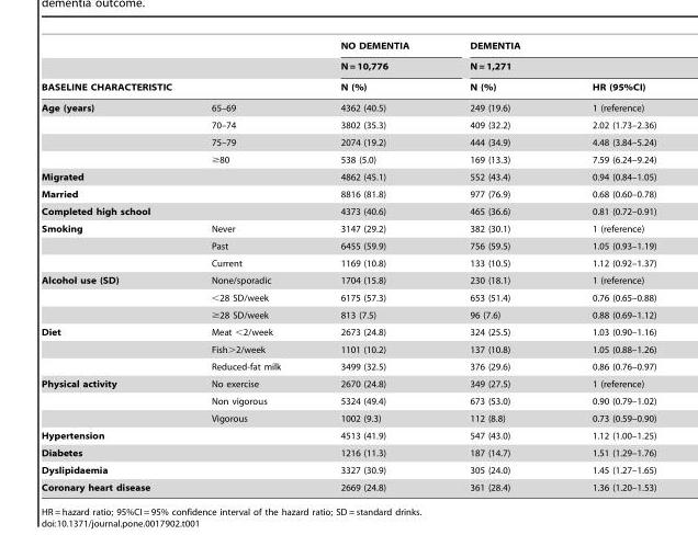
<table><thead><tr><td rowspan="2"></td><td rowspan="2"></td><td rowspan="3">NO DEMENTIA N = 10,776 N (%)</td><td rowspan="2" colspan="2">DEMENTIA N = 1,271</td></tr><tr></tr><tr><td colspan="2">BASELINE CHARACTERISTIC</td><td>N (%)</td><td>HR (95%CI)</td></tr></thead><tbody><tr><td rowspan="4">Age (years)</td><td>65–69</td><td>4362 (40.5)</td><td>249 (19.6)</td><td>1 (reference)</td></tr><tr><td>70–74</td><td>3802 (35.3)</td><td>409 (32.2)</td><td>2.02 (1.73–2.36)</td></tr><tr><td>75–79</td><td>2074 (19.2)</td><td>444 (34.9)</td><td>4.48 (3.84–5.24)</td></tr><tr><td>≥80</td><td>538 (5.0)</td><td>169 (13.3)</td><td>7.59 (6.24–9.24)</td></tr><tr><td>Migrated</td><td></td><td>4862 (45.1)</td><td>552 (43.4)</td><td>0.94 (0.84–1.05)</td></tr><tr><td>Married</td><td></td><td>8816 (81.8)</td><td>977 (76.9)</td><td>0.68 (0.60–0.78)</td></tr><tr><td>Completed high school</td><td></td><td>4373 (40.6)</td><td>465 (36.6)</td><td>0.81 (0.72–0.91)</td></tr><tr><td rowspan="3">Smoking</td><td>Never</td><td>3147 (29.2)</td><td>382 (30.1)</td><td>1 (reference)</td></tr><tr><td>Past</td><td>6455 (59.9)</td><td>756 (59.5)</td><td>1.05 (0.93–1.19)</td></tr><tr><td>Current</td><td>1169 (10.8)</td><td>133 (10.5)</td><td>1.12 (0.92–1.37)</td></tr><tr><td rowspan="3">Alcohol use (SD)</td><td>None/sporadic</td><td>1704 (15.8)</td><td>230 (18.1)</td><td>1 (reference)</td></tr><tr><td>&lt;28 SD/week</td><td>6175 (57.3)</td><td>653 (51.4)</td><td>0.76 (0.65–0.88)</td></tr><tr><td>≥28 SD/week</td><td>813 (7.5)</td><td>96 (7.6)</td><td>0.88 (0.69–1.12)</td></tr><tr><td rowspan="3">Diet</td><td>Meat &lt;2/week</td><td>2673 (24.8)</td><td>324 (25.5)</td><td>1.03 (0.90–1.16)</td></tr><tr><td>Fish&gt;2/week</td><td>1101 (10.2)</td><td>137 (10.8)</td><td>1.05 (0.88–1.26)</td></tr><tr><td>Reduced-fat milk</td><td>3499 (32.5)</td><td>376 (29.6)</td><td>0.86 (0.76–0.97)</td></tr><tr><td rowspan="3">Physical activity</td><td>No exercise</td><td>2670 (24.8)</td><td>349 (27.5)</td><td>1 (reference)</td></tr><tr><td>Non vigorous</td><td>5324 (49.4)</td><td>673 (53.0)</td><td>0.90 (0.79–1.02)</td></tr><tr><td>Vigorous</td><td>1002 (9.3)</td><td>112 (8.8)</td><td>0.73 (0.59–0.90)</td></tr><tr><td>Hypertension</td><td></td><td>4513 (41.9)</td><td>547 (43.0)</td><td>1.12 (1.00–1.25)</td></tr><tr><td>Diabetes</td><td></td><td>1216 (11.3)</td><td>187 (14.7)</td><td>1.51 (1.29–1.76)</td></tr><tr><td>Dyslipidaemia</td><td></td><td>3327 (30.9)</td><td>305 (24.0)</td><td>1.45 (1.27–1.65)</td></tr><tr><td>Coronary heart disease</td><td></td><td>2669 (24.8)</td><td>361 (28.4)</td><td>1.36 (1.20–1.53)</td></tr></tbody></table>